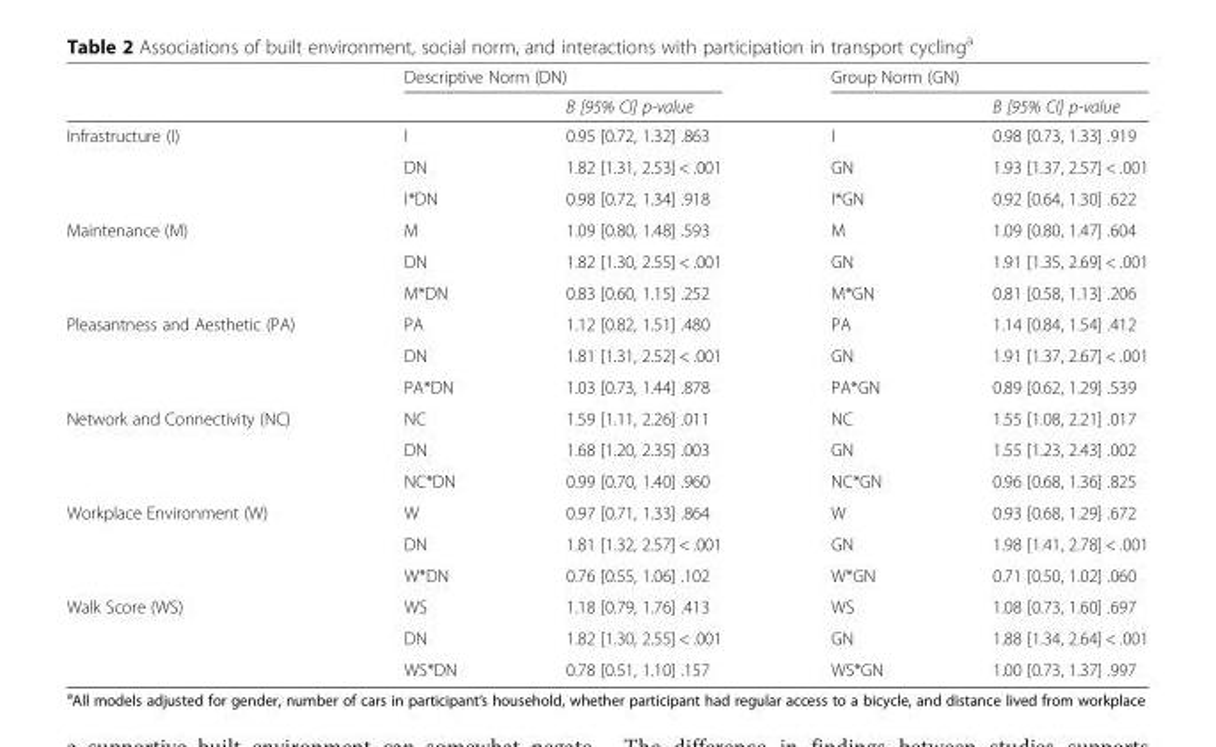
<table><thead><tr><td rowspan="2"></td><td colspan="2">Descriptive Norm (DN)</td><td colspan="2">Group Norm (GN)</td></tr><tr><td></td><td>B [95% CI] p-value</td><td></td><td>B [95% CI] p-value</td></tr></thead><tbody><tr><td rowspan="3">Infrastructure (I)</td><td>I</td><td>0.95 [0.72, 1.32] .863</td><td>I</td><td>0.98 [0.73, 1.33] .919</td></tr><tr><td>DN</td><td>1.82 [1.31, 2.53] &lt; .001</td><td>GN</td><td>1.93 [1.37, 2.57] &lt; .001</td></tr><tr><td>I*DN</td><td>0.98 [0.72, 1.34] .918</td><td>I*GN</td><td>0.92 [0.64, 1.30] .622</td></tr><tr><td rowspan="3">Maintenance (M)</td><td>M</td><td>1.09 [0.80, 1.48] .593</td><td>M</td><td>1.09 [0.80, 1.47] .604</td></tr><tr><td>DN</td><td>1.82 [1.30, 2.55] &lt; .001</td><td>GN</td><td>1.91 [1.35, 2.69] &lt; .001</td></tr><tr><td>M*DN</td><td>0.83 [0.60, 1.15] .252</td><td>M*GN</td><td>0.81 [0.58, 1.13] .206</td></tr><tr><td rowspan="3">Pleasantness and Aesthetic (PA)</td><td>PA</td><td>1.12 [0.82, 1.51] .480</td><td>PA</td><td>1.14 [0.84, 1.54] .412</td></tr><tr><td>DN</td><td>1.81 [1.31, 2.52] &lt; .001</td><td>GN</td><td>1.91 [1.37, 2.67] &lt; .001</td></tr><tr><td>PA*DN</td><td>1.03 [0.73, 1.44] .878</td><td>PA*GN</td><td>0.89 [0.62, 1.29] .539</td></tr><tr><td rowspan="3">Network and Connectivity (NC)</td><td>NC</td><td>1.59 [1.11, 2.26] .011</td><td>NC</td><td>1.55 [1.08, 2.21] .017</td></tr><tr><td>DN</td><td>1.68 [1.20, 2.35] .003</td><td>GN</td><td>1.55 [1.23, 2.43] .002</td></tr><tr><td>NC*DN</td><td>0.99 [0.70, 1.40] .960</td><td>NC*GN</td><td>0.96 [0.68, 1.36] .825</td></tr><tr><td rowspan="3">Workplace Environment (W)</td><td>W</td><td>0.97 [0.71, 1.33] .864</td><td>W</td><td>0.93 [0.68, 1.29] .672</td></tr><tr><td>DN</td><td>1.81 [1.32, 2.57] &lt; .001</td><td>GN</td><td>1.98 [1.41, 2.78] &lt; .001</td></tr><tr><td>W*DN</td><td>0.76 [0.55, 1.06] .102</td><td>W*GN</td><td>0.71 [0.50, 1.02] .060</td></tr><tr><td rowspan="3">Walk Score (WS)</td><td>WS</td><td>1.18 [0.79, 1.76] .413</td><td>WS</td><td>1.08 [0.73, 1.60] .697</td></tr><tr><td>DN</td><td>1.82 [1.30, 2.55] &lt; .001</td><td>GN</td><td>1.88 [1.34, 2.64] &lt; .001</td></tr><tr><td>WS*DN</td><td>0.78 [0.51, 1.10] .157</td><td>WS*GN</td><td>1.00 [0.73, 1.37] .997</td></tr></tbody></table>